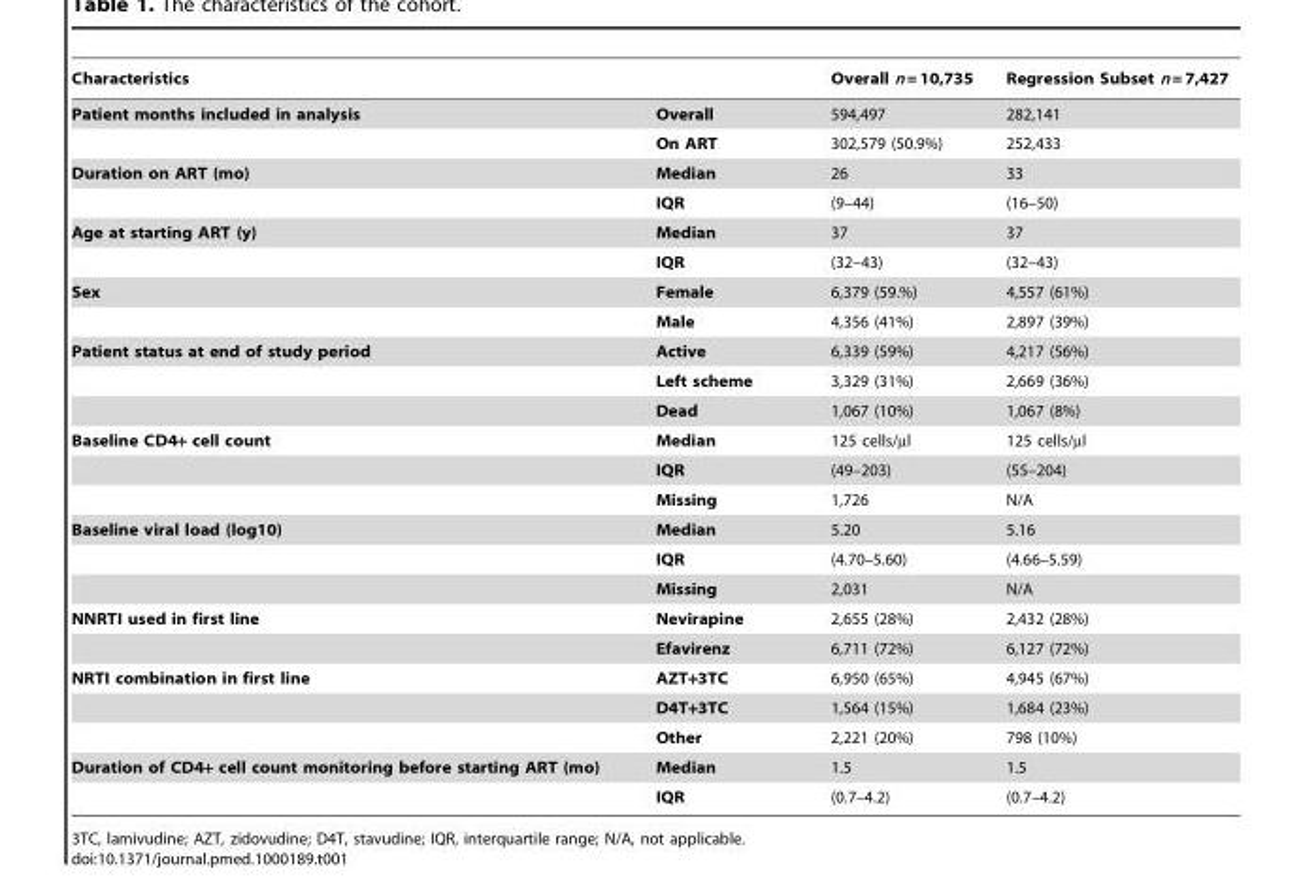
<table><thead><tr><td colspan="2">Characteristics</td><td rowspan="2">Overall n = 10,735 594,497</td><td rowspan="2">Regression Subset n = 7,427 282,141</td></tr><tr><td>Patient months included in analysis</td><td>Overall</td></tr></thead><tbody><tr><td></td><td>On ART</td><td>302,579 (50.9%)</td><td>252,433</td></tr><tr><td rowspan="2">Duration on ART (mo)</td><td>Median</td><td>26</td><td>33</td></tr><tr><td>IQR</td><td>(9–44)</td><td>(16–50)</td></tr><tr><td rowspan="2">Age at starting ART (y)</td><td>Median</td><td>37</td><td>37</td></tr><tr><td>IQR</td><td>(32–43)</td><td>(32–43)</td></tr><tr><td rowspan="2">Sex</td><td>Female</td><td>6,379 (59.%)</td><td>4,557 (61%)</td></tr><tr><td>Male</td><td>4,356 (41%)</td><td>2,897 (39%)</td></tr><tr><td rowspan="3">Patient status at end of study period</td><td>Active</td><td>6,339 (59%)</td><td>4,217 (56%)</td></tr><tr><td>Left scheme</td><td>3,329 (31%)</td><td>2,669 (36%)</td></tr><tr><td>Dead</td><td>1,067 (10%)</td><td>1,067 (8%)</td></tr><tr><td rowspan="3">Baseline CD4+ cell count</td><td>Median</td><td>125 cells/µl</td><td>125 cells/µl</td></tr><tr><td>IQR</td><td>(49–203)</td><td>(55–204)</td></tr><tr><td>Missing</td><td>1,726</td><td>N/A</td></tr><tr><td rowspan="3">Baseline viral load (log10)</td><td>Median</td><td>5.20</td><td>5.16</td></tr><tr><td>IQR</td><td>(4.70–5.60)</td><td>(4.66–5.59)</td></tr><tr><td>Missing</td><td>2,031</td><td>N/A</td></tr><tr><td rowspan="2">NNRTI used in first line</td><td>Nevirapine</td><td>2,655 (28%)</td><td>2,432 (28%)</td></tr><tr><td>Efavirenz</td><td>6,711 (72%)</td><td>6,127 (72%)</td></tr><tr><td rowspan="3">NRTI combination in first line</td><td>AZT+3TC</td><td>6,950 (65%)</td><td>4,945 (67%)</td></tr><tr><td>D4T+3TC</td><td>1,564 (15%)</td><td>1,684 (23%)</td></tr><tr><td>Other</td><td>2,221 (20%)</td><td>798 (10%)</td></tr><tr><td rowspan="2">Duration of CD4+ cell count monitoring before starting ART (mo)</td><td>Median</td><td>1.5</td><td>1.5</td></tr><tr><td>IQR</td><td>(0.7–4.2)</td><td>(0.7–4.2)</td></tr></tbody></table>